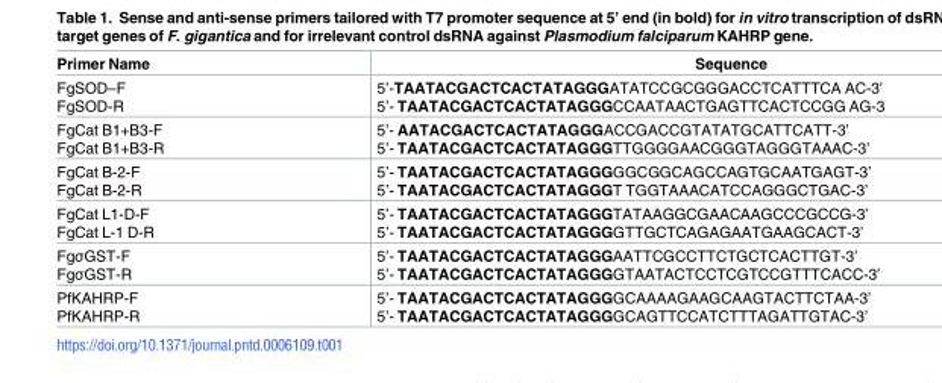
<table><thead><tr><td>Primer Name</td><td>Sequence</td></tr></thead><tbody><tr><td>FgSOD–F FgSOD-R</td><td>5’-TAATACGACTCACTATAGGGATATCCGCGGGACCTCATTTCA AC-3’ 5’- TAATACGACTCACTATAGGGCCAATAACTGAGTTCACTCCGG AG-3</td></tr><tr><td>FgCat B1+B3-F FgCat B1+B3-R</td><td>5’- AATACGACTCACTATAGGGACCGACCGTATATGCATTCATT-3’ 5’- TAATACGACTCACTATAGGGTTGGGGAACGGGTAGGGTAAAC-3’</td></tr><tr><td>FgCat B-2-F FgCat B-2-R</td><td>5’- TAATACGACTCACTATAGGGGGCGGCAGCCAGTGCAATGAGT-3’ 5’- TAATACGACTCACTATAGGGT TGGTAAACATCCAGGGCTGAC-3’</td></tr><tr><td>FgCat L1-D-F FgCat L-1 D-R</td><td>5’- TAATACGACTCACTATAGGGTATAAGGCGAACAAGCCCGCCG-3’ 5’- TAATACGACTCACTATAGGGGTTGCTCAGAGAATGAAGCACT-3’</td></tr><tr><td>FgσGST-F FgσGST-R</td><td>5’- TAATACGACTCACTATAGGGAATTCGCCTTCTGCTCACTTGT-3’ 5’- TAATACGACTCACTATAGGGGTAATACTCCTCGTCCGTTTCACC-3’</td></tr><tr><td>PfKAHRP-F PfKAHRP-R</td><td>5’- TAATACGACTCACTATAGGGGCAAAAGAAGCAAGTACTTCTAA-3’ 5’- TAATACGACTCACTATAGGGGCAGTTCCATCTTTAGATTGTAC-3’</td></tr></tbody></table>